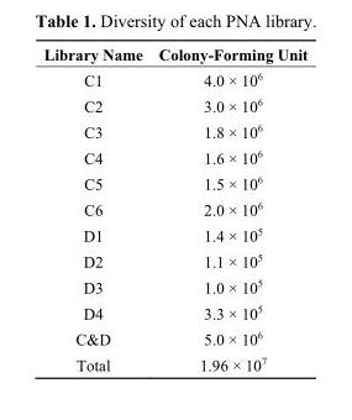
<table><thead><tr><td>Library Name</td><td>Colony-Forming Unit</td></tr></thead><tbody><tr><td>C1</td><td>4.0 × 10<sup>6</sup></td></tr><tr><td>C2</td><td>3.0 × 10<sup>6</sup></td></tr><tr><td>C3</td><td>1.8 × 10<sup>6</sup></td></tr><tr><td>C4</td><td>1.6 × 10<sup>6</sup></td></tr><tr><td>C5</td><td>1.5 × 10<sup>6</sup></td></tr><tr><td>C6</td><td>2.0 × 10<sup>6</sup></td></tr><tr><td>D1</td><td>1.4 × 10<sup>5</sup></td></tr><tr><td>D2</td><td>1.1 × 10<sup>5</sup></td></tr><tr><td>D3</td><td>1.0 × 10<sup>5</sup></td></tr><tr><td>D4</td><td>3.3 × 10<sup>5</sup></td></tr><tr><td>C&amp;D</td><td>5.0 × 10<sup>6</sup></td></tr><tr><td>Total</td><td>1.96 × 10<sup>7</sup></td></tr></tbody></table>